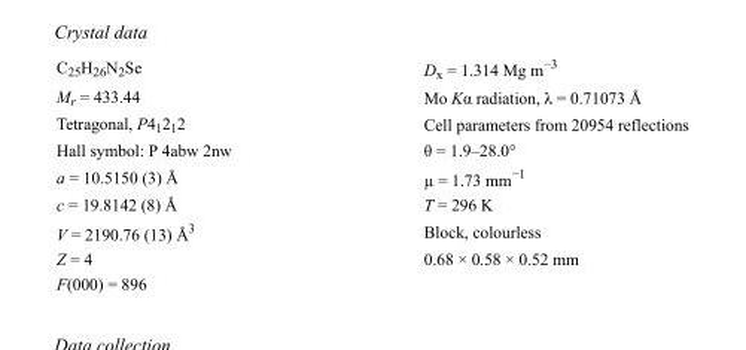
<table><tbody><tr><td>C<sub>25</sub>H<sub>26</sub>N<sub>2</sub>Se</td><td>D<sub>x</sub> = 1.314 Mg m<sup>−3</sup></td></tr><tr><td>M<sub>r</sub> = 433.44</td><td>Mo Kα radiation, λ = 0.71073 Å</td></tr><tr><td>Tetragonal, P4<sub>1</sub>2<sub>1</sub>2</td><td>Cell parameters from 20954 reflections</td></tr><tr><td>Hall symbol: P 4abw 2nw</td><td>θ = 1.9–28.0°</td></tr><tr><td>a = 10.5150 (3) Å</td><td>µ = 1.73 mm<sup>−1</sup></td></tr><tr><td>c = 19.8142 (8) Å</td><td>T = 296 K</td></tr><tr><td>V = 2190.76 (13) Å<sup>3</sup></td><td>Block, colourless</td></tr><tr><td>Z = 4</td><td>0.68 × 0.58 × 0.52 mm</td></tr><tr><td>F(000) = 896</td><td></td></tr></tbody></table>